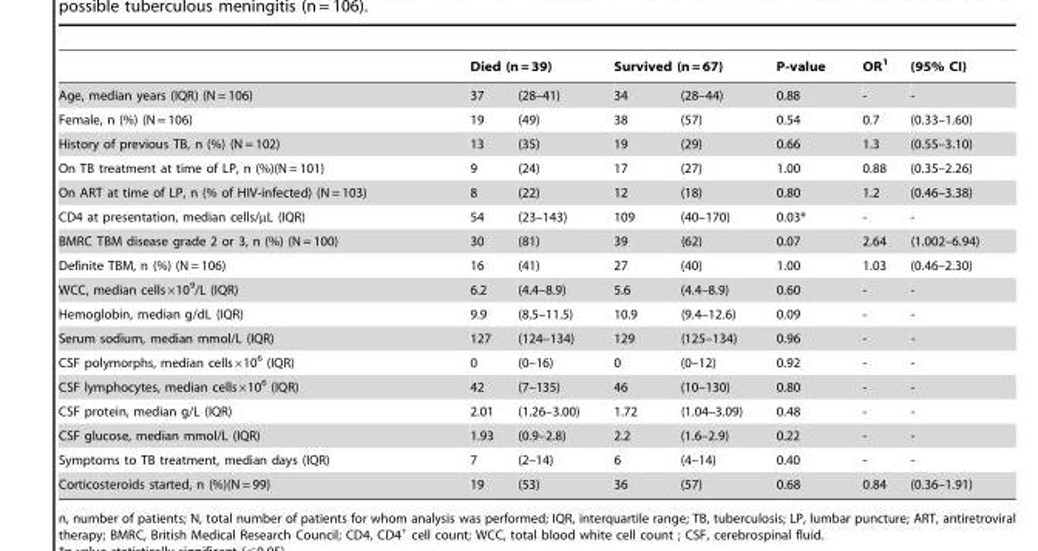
<table><thead><tr><td rowspan="2">Age, median years (IQR) (N = 106)</td><td colspan="2">Died (n = 39)</td><td colspan="2">Survived (n = 67)</td><td rowspan="2">P-value 0.88</td><td rowspan="2">OR<sup>1</sup> -</td><td rowspan="2">(95% CI) -</td></tr><tr><td>37</td><td>(28–41)</td><td>34</td><td>(28–44)</td></tr></thead><tbody><tr><td>Female, n (%) (N = 106)</td><td>19</td><td>(49)</td><td>38</td><td>(57)</td><td>0.54</td><td>0.7</td><td>(0.33–1.60)</td></tr><tr><td>History of previous TB, n (%) (N = 102)</td><td>13</td><td>(35)</td><td>19</td><td>(29)</td><td>0.66</td><td>1.3</td><td>(0.55–3.10)</td></tr><tr><td>On TB treatment at time of LP, n (%)(N = 101)</td><td>9</td><td>(24)</td><td>17</td><td>(27)</td><td>1.00</td><td>0.88</td><td>(0.35–2.26)</td></tr><tr><td>On ART at time of LP, n (% of HIV-infected) (N = 103)</td><td>8</td><td>(22)</td><td>12</td><td>(18)</td><td>0.80</td><td>1.2</td><td>(0.46–3.38)</td></tr><tr><td>CD4 at presentation, median cells/µL (IQR)</td><td>54</td><td>(23–143)</td><td>109</td><td>(40–170)</td><td>0.03*</td><td>-</td><td>-</td></tr><tr><td>BMRC TBM disease grade 2 or 3, n (%) (N = 100)</td><td>30</td><td>(81)</td><td>39</td><td>(62)</td><td>0.07</td><td>2.64</td><td>(1.002–6.94)</td></tr><tr><td>Definite TBM, n (%) (N = 106)</td><td>16</td><td>(41)</td><td>27</td><td>(40)</td><td>1.00</td><td>1.03</td><td>(0.46–2.30)</td></tr><tr><td>WCC, median cells×10<sup>9</sup>/L (IQR)</td><td>6.2</td><td>(4.4–8.9)</td><td>5.6</td><td>(4.4–8.9)</td><td>0.60</td><td>-</td><td>-</td></tr><tr><td>Hemoglobin, median g/dL (IQR)</td><td>9.9</td><td>(8.5–11.5)</td><td>10.9</td><td>(9.4–12.6)</td><td>0.09</td><td>-</td><td>-</td></tr><tr><td>Serum sodium, median mmol/L (IQR)</td><td>127</td><td>(124–134)</td><td>129</td><td>(125–134)</td><td>0.96</td><td>-</td><td>-</td></tr><tr><td>CSF polymorphs, median cells×10<sup>6</sup> (IQR)</td><td>0</td><td>(0–16)</td><td>0</td><td>(0–12)</td><td>0.92</td><td>-</td><td>-</td></tr><tr><td>CSF lymphocytes, median cells×10<sup>6</sup> (IQR)</td><td>42</td><td>(7–135)</td><td>46</td><td>(10–130)</td><td>0.80</td><td>-</td><td>-</td></tr><tr><td>CSF protein, median g/L (IQR)</td><td>2.01</td><td>(1.26–3.00)</td><td>1.72</td><td>(1.04–3.09)</td><td>0.48</td><td>-</td><td>-</td></tr><tr><td>CSF glucose, median mmol/L (IQR)</td><td>1.93</td><td>(0.9–2.8)</td><td>2.2</td><td>(1.6–2.9)</td><td>0.22</td><td>-</td><td>-</td></tr><tr><td>Symptoms to TB treatment, median days (IQR)</td><td>7</td><td>(2–14)</td><td>6</td><td>(4–14)</td><td>0.40</td><td>-</td><td>-</td></tr><tr><td>Corticosteroids started, n (%)(N = 99)</td><td>19</td><td>(53)</td><td>36</td><td>(57)</td><td>0.68</td><td>0.84</td><td>(0.36–1.91)</td></tr></tbody></table>